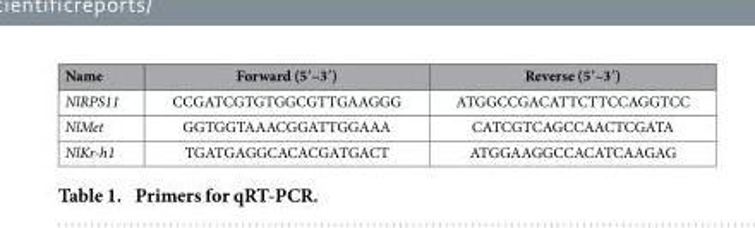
<table><thead><tr><td>Name</td><td>Forward (5′–3′)</td><td>Reverse (5′–3′)</td></tr></thead><tbody><tr><td>NlRPS11</td><td>CCGATCGTGTGGCGTTGAAGGG</td><td>ATGGCCGACATTCTTCCAGGTCC</td></tr><tr><td>NlMet</td><td>GGTGGTAAACGGATTGGAAA</td><td>CATCGTCAGCCAACTCGATA</td></tr><tr><td>NlKr-h1</td><td>TGATGAGGCACACGATGACT</td><td>ATGGAAGGCCACATCAAGAG</td></tr></tbody></table>